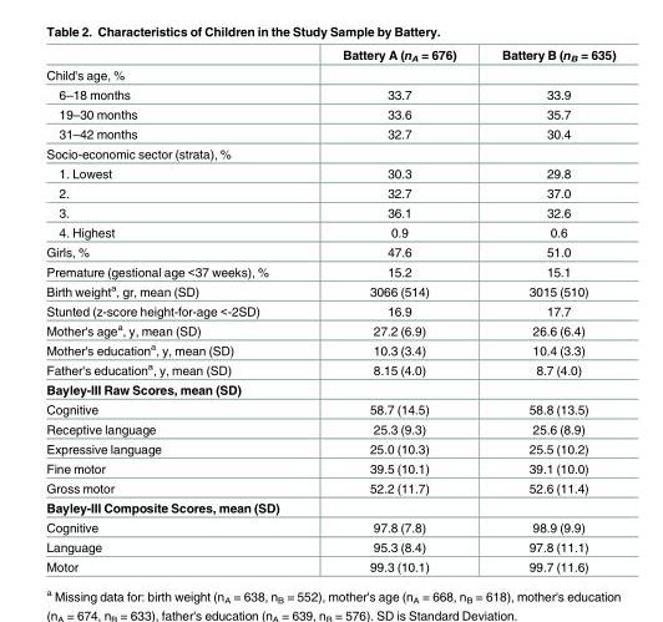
<table><thead><tr><td></td><td>Battery A (n<sub>A</sub> = 676)</td><td>Battery B (n<sub>B</sub> = 635)</td></tr></thead><tbody><tr><td colspan="3">Child&#x27;s age, %</td></tr><tr><td>6–18 months</td><td>33.7</td><td>33.9</td></tr><tr><td>19–30 months</td><td>33.6</td><td>35.7</td></tr><tr><td>31–42 months</td><td>32.7</td><td>30.4</td></tr><tr><td colspan="3">Socio-economic sector (strata), %</td></tr><tr><td>1. Lowest</td><td>30.3</td><td>29.8</td></tr><tr><td>2.</td><td>32.7</td><td>37.0</td></tr><tr><td>3.</td><td>36.1</td><td>32.6</td></tr><tr><td>4. Highest</td><td>0.9</td><td>0.6</td></tr><tr><td>Girls, %</td><td>47.6</td><td>51.0</td></tr><tr><td>Premature (gestional age &lt;37 weeks), %</td><td>15.2</td><td>15.1</td></tr><tr><td>Birth weight<sup>a</sup>, gr, mean (SD)</td><td>3066 (514)</td><td>3015 (510)</td></tr><tr><td>Stunted (z-score height-for-age &lt;-2SD)</td><td>16.9</td><td>17.7</td></tr><tr><td>Mother&#x27;s age<sup>a</sup>, y, mean (SD)</td><td>27.2 (6.9)</td><td>26.6 (6.4)</td></tr><tr><td>Mother&#x27;s education<sup>a</sup>, y, mean (SD)</td><td>10.3 (3.4)</td><td>10.4 (3.3)</td></tr><tr><td>Father&#x27;s education<sup>a</sup>, y, mean (SD)</td><td>8.15 (4.0)</td><td>8.7 (4.0)</td></tr><tr><td colspan="3">Bayley-III Raw Scores, mean (SD)</td></tr><tr><td>Cognitive</td><td>58.7 (14.5)</td><td>58.8 (13.5)</td></tr><tr><td>Receptive language</td><td>25.3 (9.3)</td><td>25.6 (8.9)</td></tr><tr><td>Expressive language</td><td>25.0 (10.3)</td><td>25.5 (10.2)</td></tr><tr><td>Fine motor</td><td>39.5 (10.1)</td><td>39.1 (10.0)</td></tr><tr><td>Gross motor</td><td>52.2 (11.7)</td><td>52.6 (11.4)</td></tr><tr><td colspan="3">Bayley-III Composite Scores, mean (SD)</td></tr><tr><td>Cognitive</td><td>97.8 (7.8)</td><td>98.9 (9.9)</td></tr><tr><td>Language</td><td>95.3 (8.4)</td><td>97.8 (11.1)</td></tr><tr><td>Motor</td><td>99.3 (10.1)</td><td>99.7 (11.6)</td></tr></tbody></table>